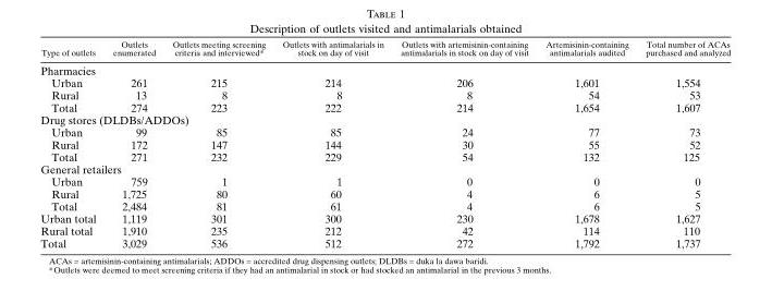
<table><thead><tr><td>Type of outlets</td><td>Outlets enumerated</td><td>Outlets meeting screening criteria and interviewed*</td><td>Outlets with antimalarials in stock on day of visit</td><td>Outlets with artemisinin-containing antimalarials in stock on day of visit</td><td>Artemisinin-containing antimalarials audited</td><td>Total number of ACAs purchased and analyzed</td></tr></thead><tbody><tr><td colspan="7">Pharmacies</td></tr><tr><td>Urban</td><td>261</td><td>215</td><td>214</td><td>206</td><td>1,601</td><td>1,554</td></tr><tr><td>Rural</td><td>13</td><td>8</td><td>8</td><td>8</td><td>54</td><td>53</td></tr><tr><td>Total</td><td>274</td><td>223</td><td>222</td><td>214</td><td>1,654</td><td>1,607</td></tr><tr><td colspan="7">Drug stores (DLDBs/ADDOs)</td></tr><tr><td>Urban</td><td>99</td><td>85</td><td>85</td><td>24</td><td>77</td><td>73</td></tr><tr><td>Rural</td><td>172</td><td>147</td><td>144</td><td>30</td><td>55</td><td>52</td></tr><tr><td>Total</td><td>271</td><td>232</td><td>229</td><td>54</td><td>132</td><td>125</td></tr><tr><td colspan="7">General retailers</td></tr><tr><td>Urban</td><td>759</td><td>1</td><td>1</td><td>0</td><td>0</td><td>0</td></tr><tr><td>Rural</td><td>1,725</td><td>80</td><td>60</td><td>4</td><td>6</td><td>5</td></tr><tr><td>Total</td><td>2,484</td><td>81</td><td>61</td><td>4</td><td>6</td><td>5</td></tr><tr><td>Urban total</td><td>1,119</td><td>301</td><td>300</td><td>230</td><td>1,678</td><td>1,627</td></tr><tr><td>Rural total</td><td>1,910</td><td>235</td><td>212</td><td>42</td><td>114</td><td>110</td></tr><tr><td>Total</td><td>3,029</td><td>536</td><td>512</td><td>272</td><td>1,792</td><td>1,737</td></tr></tbody></table>